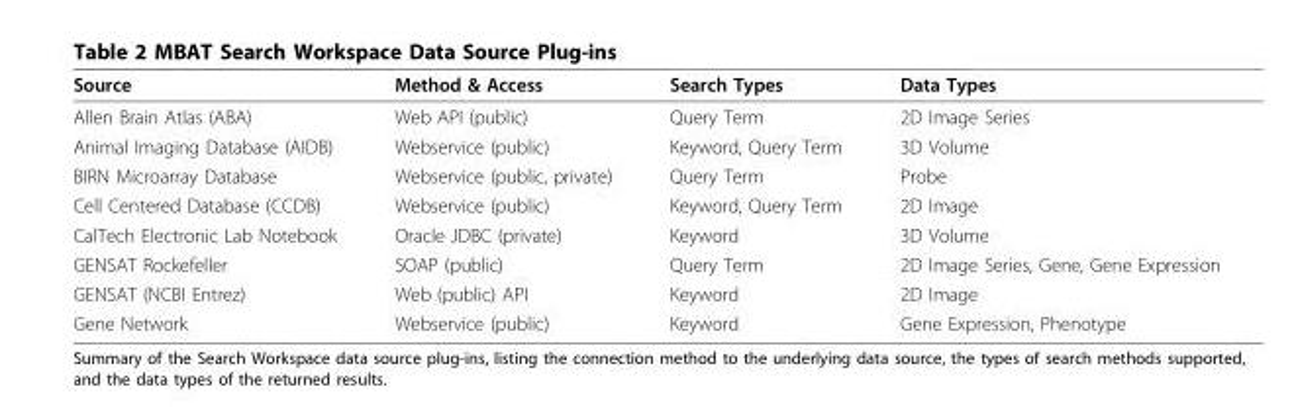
<table><thead><tr><td>Source</td><td>Method &amp; Access</td><td>Search Types</td><td>Data Types</td></tr></thead><tbody><tr><td>Allen Brain Atlas (ABA)</td><td>Web API (public)</td><td>Query Term</td><td>2D Image Series</td></tr><tr><td>Animal Imaging Database (AIDB)</td><td>Webservice (public)</td><td>Keyword, Query Term</td><td>3D Volume</td></tr><tr><td>BIRN Microarray Database</td><td>Webservice (public, private)</td><td>Query Term</td><td>Probe</td></tr><tr><td>Cell Centered Database (CCDB)</td><td>Webservice (public)</td><td>Keyword, Query Term</td><td>2D Image</td></tr><tr><td>CalTech Electronic Lab Notebook</td><td>Oracle JDBC (private)</td><td>Keyword</td><td>3D Volume</td></tr><tr><td>GENSAT Rockefeller</td><td>SOAP (public)</td><td>Query Term</td><td>2D Image Series, Gene, Gene Expression</td></tr><tr><td>GENSAT (NCBI Entrez)</td><td>Web (public) API</td><td>Keyword</td><td>2D Image</td></tr><tr><td>Gene Network</td><td>Webservice (public)</td><td>Keyword</td><td>Gene Expression, Phenotype</td></tr></tbody></table>